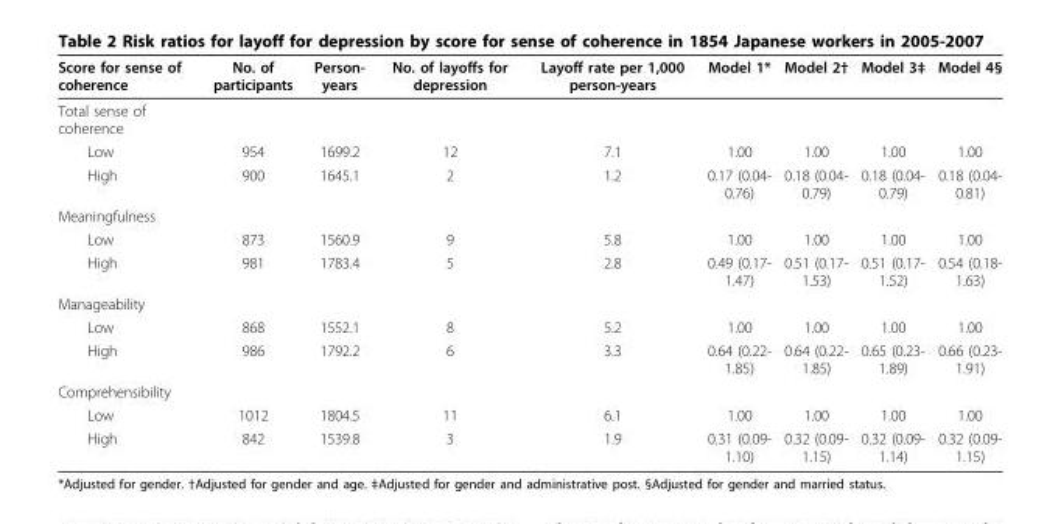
<table><thead><tr><td>Score for sense of coherence</td><td>No. of participants</td><td>Person- years</td><td>No. of layoffs for depression</td><td>Layoff rate per 1,000 person-years</td><td>Model 1*</td><td>Model 2†</td><td>Model 3‡</td><td>Model 4§</td></tr></thead><tbody><tr><td colspan="9">Total sense of coherence</td></tr><tr><td>Low</td><td>954</td><td>1699.2</td><td>12</td><td>7.1</td><td>1.00</td><td>1.00</td><td>1.00</td><td>1.00</td></tr><tr><td>High</td><td>900</td><td>1645.1</td><td>2</td><td>1.2</td><td>0.17 (0.04- 0.76)</td><td>0.18 (0.04- 0.79)</td><td>0.18 (0.04- 0.79)</td><td>0.18 (0.04- 0.81)</td></tr><tr><td colspan="9">Meaningfulness</td></tr><tr><td>Low</td><td>873</td><td>1560.9</td><td>9</td><td>5.8</td><td>1.00</td><td>1.00</td><td>1.00</td><td>1.00</td></tr><tr><td>High</td><td>981</td><td>1783.4</td><td>5</td><td>2.8</td><td>0.49 (0.17- 1.47)</td><td>0.51 (0.17- 1.53)</td><td>0.51 (0.17- 1.52)</td><td>0.54 (0.18- 1.63)</td></tr><tr><td colspan="9">Manageability</td></tr><tr><td>Low</td><td>868</td><td>1552.1</td><td>8</td><td>5.2</td><td>1.00</td><td>1.00</td><td>1.00</td><td>1.00</td></tr><tr><td>High</td><td>986</td><td>1792.2</td><td>6</td><td>3.3</td><td>0.64 (0.22- 1.85)</td><td>0.64 (0.22- 1.85)</td><td>0.65 (0.23- 1.89)</td><td>0.66 (0.23- 1.91)</td></tr><tr><td colspan="9">Comprehensibility</td></tr><tr><td>Low</td><td>1012</td><td>1804.5</td><td>11</td><td>6.1</td><td>1.00</td><td>1.00</td><td>1.00</td><td>1.00</td></tr><tr><td>High</td><td>842</td><td>1539.8</td><td>3</td><td>1.9</td><td>0.31 (0.09- 1.10)</td><td>0.32 (0.09- 1.15)</td><td>0.32 (0.09- 1.14)</td><td>0.32 (0.09- 1.15)</td></tr></tbody></table>